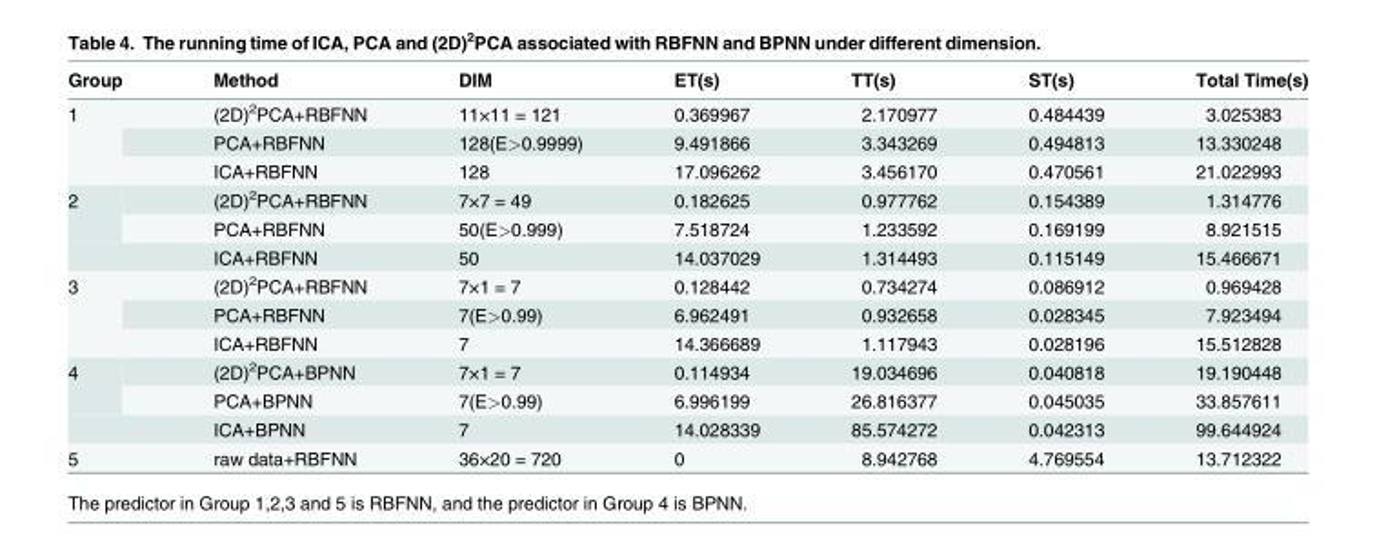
<table><thead><tr><td>Group</td><td>Method</td><td>DIM</td><td>ET(s)</td><td>TT(s)</td><td>ST(s)</td><td>Total Time(s)</td></tr></thead><tbody><tr><td rowspan="3">1</td><td>(2D)<sup>2</sup>PCA+RBFNN</td><td>11×11 = 121</td><td>0.369967</td><td>2.170977</td><td>0.484439</td><td>3.025383</td></tr><tr><td>PCA+RBFNN</td><td>128(E&gt;0.9999)</td><td>9.491866</td><td>3.343269</td><td>0.494813</td><td>13.330248</td></tr><tr><td>ICA+RBFNN</td><td>128</td><td>17.096262</td><td>3.456170</td><td>0.470561</td><td>21.022993</td></tr><tr><td rowspan="3">2</td><td>(2D)<sup>2</sup>PCA+RBFNN</td><td>7×7 = 49</td><td>0.182625</td><td>0.977762</td><td>0.154389</td><td>1.314776</td></tr><tr><td>PCA+RBFNN</td><td>50(E&gt;0.999)</td><td>7.518724</td><td>1.233592</td><td>0.169199</td><td>8.921515</td></tr><tr><td>ICA+RBFNN</td><td>50</td><td>14.037029</td><td>1.314493</td><td>0.115149</td><td>15.466671</td></tr><tr><td rowspan="3">3</td><td>(2D)<sup>2</sup>PCA+RBFNN</td><td>7×1 = 7</td><td>0.128442</td><td>0.734274</td><td>0.086912</td><td>0.969428</td></tr><tr><td>PCA+RBFNN</td><td>7(E&gt;0.99)</td><td>6.962491</td><td>0.932658</td><td>0.028345</td><td>7.923494</td></tr><tr><td>ICA+RBFNN</td><td>7</td><td>14.366689</td><td>1.117943</td><td>0.028196</td><td>15.512828</td></tr><tr><td rowspan="3">4</td><td>(2D)<sup>2</sup>PCA+BPNN</td><td>7×1 = 7</td><td>0.114934</td><td>19.034696</td><td>0.040818</td><td>19.190448</td></tr><tr><td>PCA+BPNN</td><td>7(E&gt;0.99)</td><td>6.996199</td><td>26.816377</td><td>0.045035</td><td>33.857611</td></tr><tr><td>ICA+BPNN</td><td>7</td><td>14.028339</td><td>85.574272</td><td>0.042313</td><td>99.644924</td></tr><tr><td>5</td><td>raw data+RBFNN</td><td>36×20 = 720</td><td>0</td><td>8.942768</td><td>4.769554</td><td>13.712322</td></tr></tbody></table>